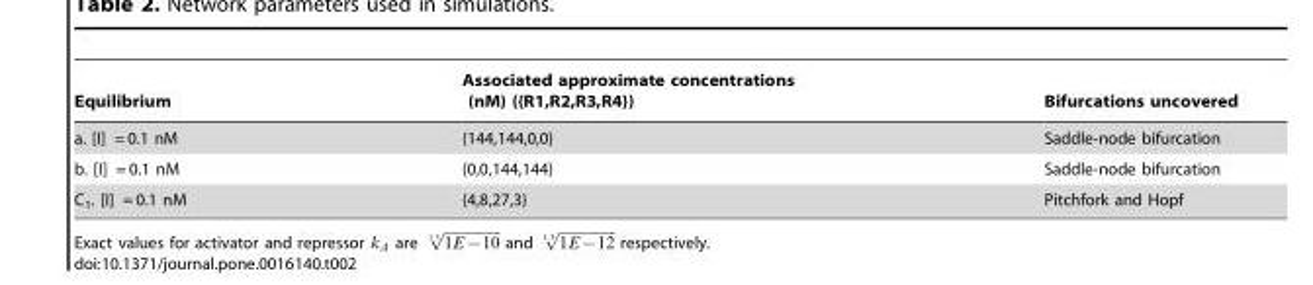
<table><thead><tr><td>Equilibrium</td><td>Associated approximate concentrations (nM) ({R1,R2,R3,R4})</td><td>Bifurcations uncovered</td></tr></thead><tbody><tr><td>a. [I] = 0.1 nM</td><td>{144,144,0,0}</td><td>Saddle-node bifurcation</td></tr><tr><td>b. [I] = 0.1 nM</td><td>{0,0,144,144}</td><td>Saddle-node bifurcation</td></tr><tr><td>C<sub>1</sub>. [I] = 0.1 nM</td><td>{4,8,27,3}</td><td>Pitchfork and Hopf</td></tr></tbody></table>